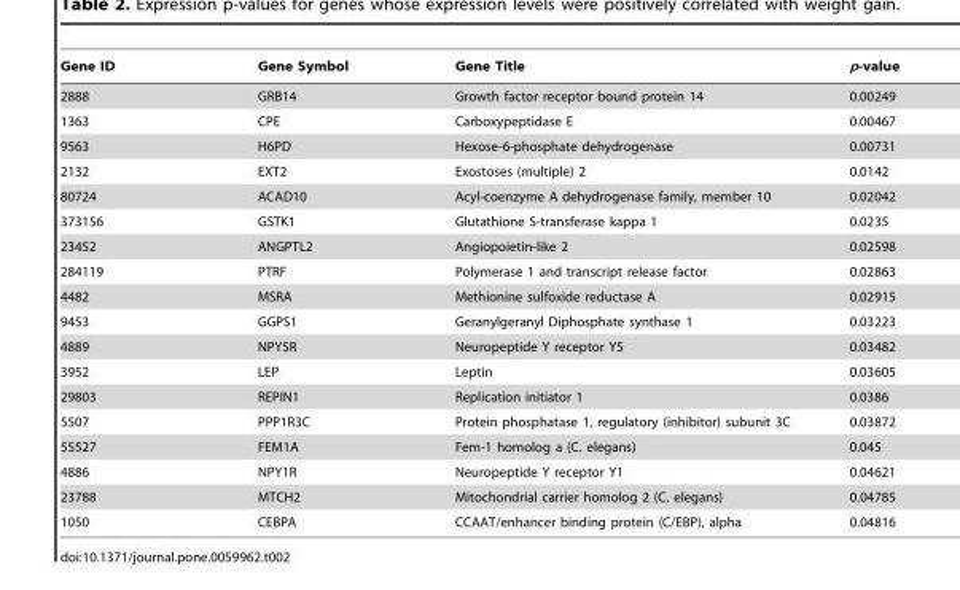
<table><thead><tr><td>Gene ID</td><td>Gene Symbol</td><td>Gene Title</td><td>p-value</td></tr></thead><tbody><tr><td>2888</td><td>GRB14</td><td>Growth factor receptor bound protein 14</td><td>0.00249</td></tr><tr><td>1363</td><td>CPE</td><td>Carboxypeptidase E</td><td>0.00467</td></tr><tr><td>9563</td><td>H6PD</td><td>Hexose-6-phosphate dehydrogenase</td><td>0.00731</td></tr><tr><td>2132</td><td>EXT2</td><td>Exostoses (multiple) 2</td><td>0.0142</td></tr><tr><td>80724</td><td>ACAD10</td><td>Acyl-coenzyme A dehydrogenase family, member 10</td><td>0.02042</td></tr><tr><td>373156</td><td>GSTK1</td><td>Glutathione S-transferase kappa 1</td><td>0.0235</td></tr><tr><td>23452</td><td>ANGPTL2</td><td>Angiopoietin-like 2</td><td>0.02598</td></tr><tr><td>284119</td><td>PTRF</td><td>Polymerase 1 and transcript release factor</td><td>0.02863</td></tr><tr><td>4482</td><td>MSRA</td><td>Methionine sulfoxide reductase A</td><td>0.02915</td></tr><tr><td>9453</td><td>GGPS1</td><td>Geranylgeranyl Diphosphate synthase 1</td><td>0.03223</td></tr><tr><td>4889</td><td>NPY5R</td><td>Neuropeptide Y receptor Y5</td><td>0.03482</td></tr><tr><td>3952</td><td>LEP</td><td>Leptin</td><td>0.03605</td></tr><tr><td>29803</td><td>REPIN1</td><td>Replication initiator 1</td><td>0.0386</td></tr><tr><td>5507</td><td>PPP1R3C</td><td>Protein phosphatase 1, regulatory (inhibitor) subunit 3C</td><td>0.03872</td></tr><tr><td>55527</td><td>FEM1A</td><td>Fem-1 homolog a (C. elegans)</td><td>0.045</td></tr><tr><td>4886</td><td>NPY1R</td><td>Neuropeptide Y receptor Y1</td><td>0.04621</td></tr><tr><td>23788</td><td>MTCH2</td><td>Mitochondrial carrier homolog 2 (C. elegans)</td><td>0.04785</td></tr><tr><td>1050</td><td>CEBPA</td><td>CCAAT/enhancer binding protein (C/EBP), alpha</td><td>0.04816</td></tr></tbody></table>